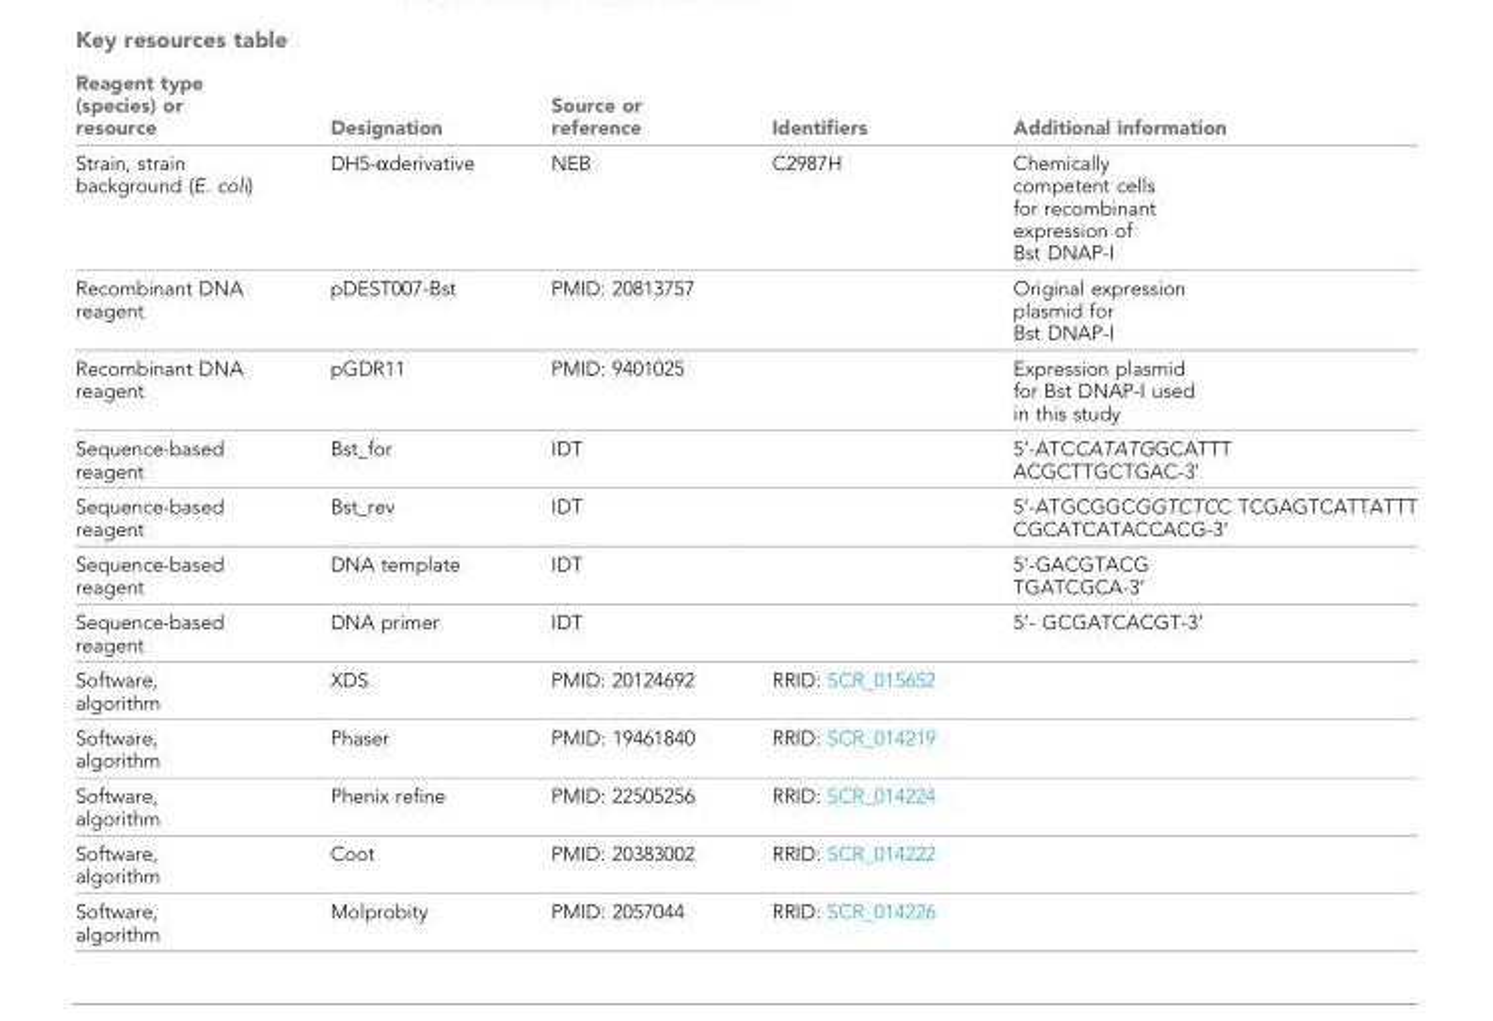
<table><thead><tr><td>Reagent type (species) or resource</td><td>Designation</td><td>Source or reference</td><td>Identifiers</td><td>Additional information</td></tr></thead><tbody><tr><td>Strain, strain background (E. coli)</td><td>DH5-αderivative</td><td>NEB</td><td>C2987H</td><td>Chemically competent cells for recombinant expression of Bst DNAP-I</td></tr><tr><td>Recombinant DNA reagent</td><td>pDEST007-Bst</td><td>PMID: 20813757</td><td></td><td>Original expression plasmid for Bst DNAP-I</td></tr><tr><td>Recombinant DNA reagent</td><td>pGDR11</td><td>PMID: 9401025</td><td></td><td>Expression plasmid for Bst DNAP-I used in this study</td></tr><tr><td>Sequence-based reagent</td><td>Bst_for</td><td>IDT</td><td></td><td>5’-ATCCATATGGCATTT ACGCTTGCTGAC-3’</td></tr><tr><td>Sequence-based reagent</td><td>Bst_rev</td><td>IDT</td><td></td><td>5’-ATGCGGCGGTCTCC TCGAGTCATTATTT CGCATCATACCACG-3’</td></tr><tr><td>Sequence-based reagent</td><td>DNA template</td><td>IDT</td><td></td><td>5’-GACGTACG TGATCGCA-3’</td></tr><tr><td>Sequence-based reagent</td><td>DNA primer</td><td>IDT</td><td></td><td>5’- GCGATCACGT-3’</td></tr><tr><td>Software, algorithm</td><td>XDS</td><td>PMID: 20124692</td><td>RRID: SCR_015652</td><td></td></tr><tr><td>Software, algorithm</td><td>Phaser</td><td>PMID: 19461840</td><td>RRID: SCR_014219</td><td></td></tr><tr><td>Software, algorithm</td><td>Phenix refine</td><td>PMID: 22505256</td><td>RRID: SCR_014224</td><td></td></tr><tr><td>Software, algorithm</td><td>Coot</td><td>PMID: 20383002</td><td>RRID: SCR_014222</td><td></td></tr><tr><td>Software, algorithm</td><td>Molprobity</td><td>PMID: 2057044</td><td>RRID: SCR_014226</td><td></td></tr></tbody></table>